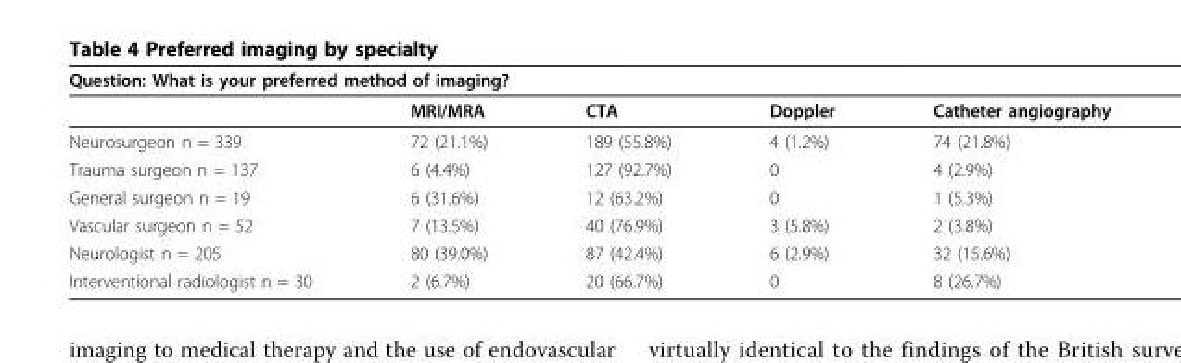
<table><thead><tr><td colspan="5">Question: What is your preferred method of imaging?</td></tr><tr><td></td><td>MRI/MRA</td><td>CTA</td><td>Doppler</td><td>Catheter angiography</td></tr></thead><tbody><tr><td>Neurosurgeon n = 339</td><td>72 (21.1%)</td><td>189 (55.8%)</td><td>4 (1.2%)</td><td>74 (21.8%)</td></tr><tr><td>Trauma surgeon n = 137</td><td>6 (4.4%)</td><td>127 (92.7%)</td><td>0</td><td>4 (2.9%)</td></tr><tr><td>General surgeon n = 19</td><td>6 (31.6%)</td><td>12 (63.2%)</td><td>0</td><td>1 (5.3%)</td></tr><tr><td>Vascular surgeon n = 52</td><td>7 (13.5%)</td><td>40 (76.9%)</td><td>3 (5.8%)</td><td>2 (3.8%)</td></tr><tr><td>Neurologist n = 205</td><td>80 (39.0%)</td><td>87 (42.4%)</td><td>6 (2.9%)</td><td>32 (15.6%)</td></tr><tr><td>Interventional radiologist n = 30</td><td>2 (6.7%)</td><td>20 (66.7%)</td><td>0</td><td>8 (26.7%)</td></tr></tbody></table>